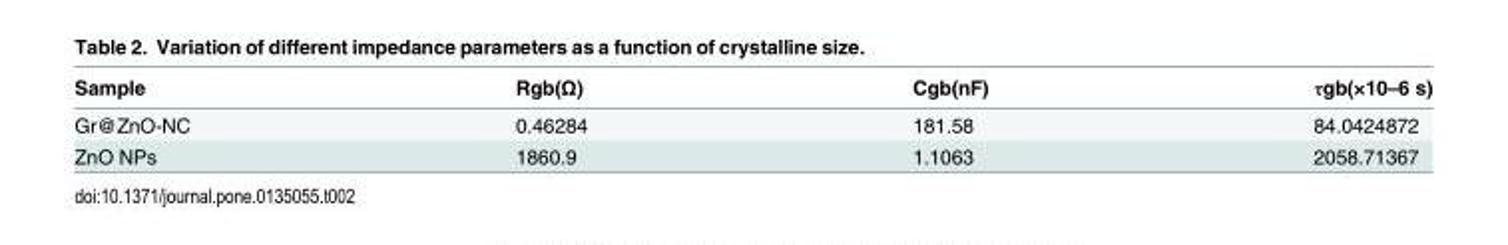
<table><thead><tr><td>Sample</td><td>Rgb(Ω)</td><td>Cgb(nF)</td><td>τgb(×10–6 s)</td></tr></thead><tbody><tr><td>Gr@ZnO-NC</td><td>0.46284</td><td>181.58</td><td>84.0424872</td></tr><tr><td>ZnO NPs</td><td>1860.9</td><td>1.1063</td><td>2058.71367</td></tr></tbody></table>